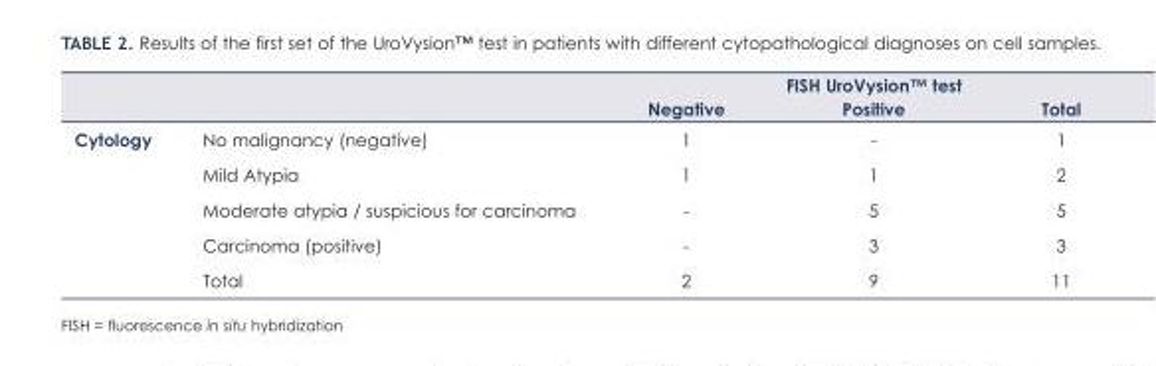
<table><thead><tr><td rowspan="2"></td><td rowspan="2"></td><td colspan="3">FISH UroVysion™ test</td></tr><tr><td>Negative</td><td>Positive</td><td>Total</td></tr></thead><tbody><tr><td rowspan="5">Cytology</td><td>No malignancy (negative)</td><td>1</td><td>-</td><td>1</td></tr><tr><td>Mild Atypia</td><td>1</td><td>1</td><td>2</td></tr><tr><td>Moderate atypia / suspicious for carcinoma</td><td>-</td><td>5</td><td>5</td></tr><tr><td>Carcinoma (positive)</td><td>-</td><td>3</td><td>3</td></tr><tr><td>Total</td><td>2</td><td>9</td><td>11</td></tr></tbody></table>